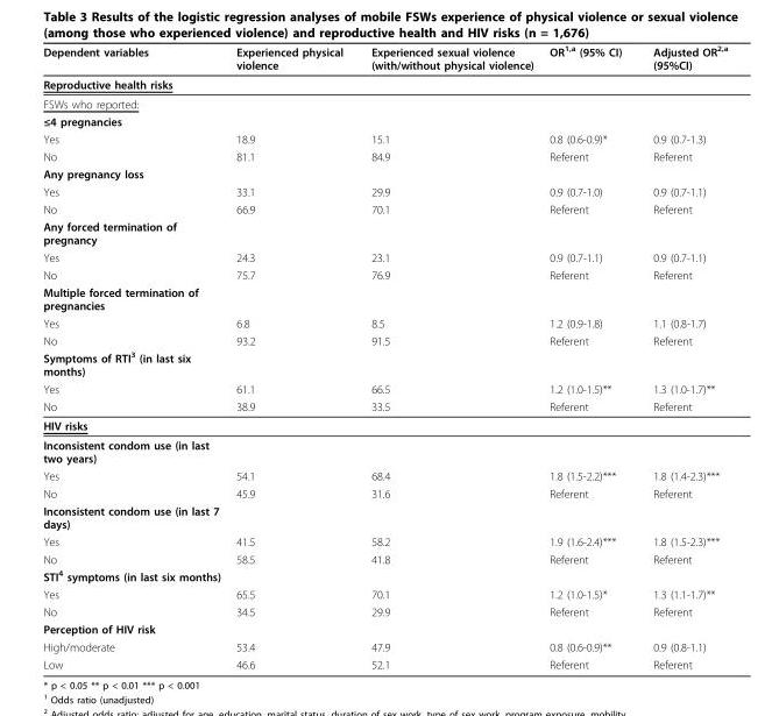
<table><thead><tr><td>Dependent variables</td><td>Experienced physical violence</td><td>Experienced sexual violence (with/without physical violence)</td><td>OR<sup>1,a</sup> (95% CI)</td><td>Adjusted OR<sup>2,a</sup> (95%CI)</td></tr></thead><tbody><tr><td colspan="5">Reproductive health risks</td></tr><tr><td colspan="5">FSWs who reported:</td></tr><tr><td colspan="5">≤4 pregnancies</td></tr><tr><td>Yes</td><td>18.9</td><td>15.1</td><td>0.8 (0.6-0.9)*</td><td>0.9 (0.7-1.3)</td></tr><tr><td>No</td><td>81.1</td><td>84.9</td><td>Referent</td><td>Referent</td></tr><tr><td colspan="5">Any pregnancy loss</td></tr><tr><td>Yes</td><td>33.1</td><td>29.9</td><td>0.9 (0.7-1.0)</td><td>0.9 (0.7-1.1)</td></tr><tr><td>No</td><td>66.9</td><td>70.1</td><td>Referent</td><td>Referent</td></tr><tr><td colspan="5">Any forced termination of pregnancy</td></tr><tr><td>Yes</td><td>24.3</td><td>23.1</td><td>0.9 (0.7-1.1)</td><td>0.9 (0.7-1.1)</td></tr><tr><td>No</td><td>75.7</td><td>76.9</td><td>Referent</td><td>Referent</td></tr><tr><td colspan="5">Multiple forced termination of pregnancies</td></tr><tr><td>Yes</td><td>6.8</td><td>8.5</td><td>1.2 (0.9-1.8)</td><td>1.1 (0.8-1.7)</td></tr><tr><td>No</td><td>93.2</td><td>91.5</td><td>Referent</td><td>Referent</td></tr><tr><td colspan="5">Symptoms of RTI<sup>3</sup> (in last six months)</td></tr><tr><td>Yes</td><td>61.1</td><td>66.5</td><td>1.2 (1.0-1.5)**</td><td>1.3 (1.0-1.7)**</td></tr><tr><td>No</td><td>38.9</td><td>33.5</td><td>Referent</td><td>Referent</td></tr><tr><td colspan="5">HIV risks</td></tr><tr><td colspan="5">Inconsistent condom use (in last two years)</td></tr><tr><td>Yes</td><td>54.1</td><td>68.4</td><td>1.8 (1.5-2.2)***</td><td>1.8 (1.4-2.3)***</td></tr><tr><td>No</td><td>45.9</td><td>31.6</td><td>Referent</td><td>Referent</td></tr><tr><td colspan="5">Inconsistent condom use (in last 7 days)</td></tr><tr><td>Yes</td><td>41.5</td><td>58.2</td><td>1.9 (1.6-2.4)***</td><td>1.8 (1.5-2.3)***</td></tr><tr><td>No</td><td>58.5</td><td>41.8</td><td>Referent</td><td>Referent</td></tr><tr><td colspan="5">STI<sup>4</sup> symptoms (in last six months)</td></tr><tr><td>Yes</td><td>65.5</td><td>70.1</td><td>1.2 (1.0-1.5)*</td><td>1.3 (1.1-1.7)**</td></tr><tr><td>No</td><td>34.5</td><td>29.9</td><td>Referent</td><td>Referent</td></tr><tr><td colspan="5">Perception of HIV risk</td></tr><tr><td>High/moderate</td><td>53.4</td><td>47.9</td><td>0.8 (0.6-0.9)**</td><td>0.9 (0.8-1.1)</td></tr><tr><td>Low</td><td>46.6</td><td>52.1</td><td>Referent</td><td>Referent</td></tr></tbody></table>